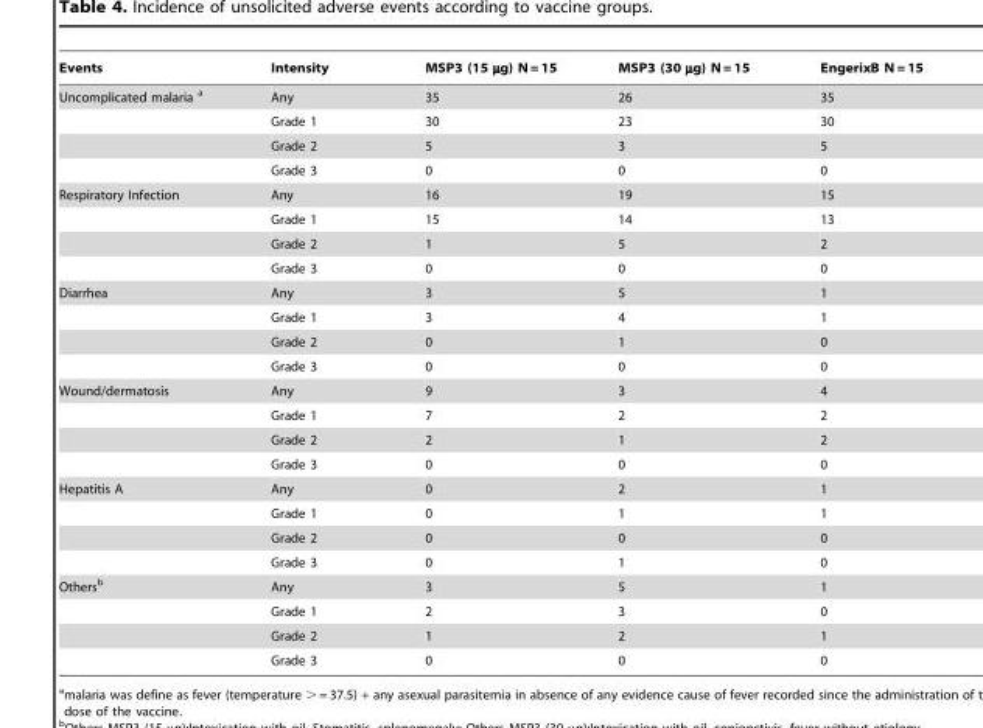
<table><thead><tr><td>Events</td><td>Intensity</td><td>MSP3 (15 µg) N = 15</td><td>MSP3 (30 µg) N = 15</td><td>EngerixB N = 15</td></tr></thead><tbody><tr><td rowspan="4">Uncomplicated malaria a</td><td>Any</td><td>35</td><td>26</td><td>35</td></tr><tr><td>Grade 1</td><td>30</td><td>23</td><td>30</td></tr><tr><td>Grade 2</td><td>5</td><td>3</td><td>5</td></tr><tr><td>Grade 3</td><td>0</td><td>0</td><td>0</td></tr><tr><td rowspan="4">Respiratory Infection</td><td>Any</td><td>16</td><td>19</td><td>15</td></tr><tr><td>Grade 1</td><td>15</td><td>14</td><td>13</td></tr><tr><td>Grade 2</td><td>1</td><td>5</td><td>2</td></tr><tr><td>Grade 3</td><td>0</td><td>0</td><td>0</td></tr><tr><td rowspan="4">Diarrhea</td><td>Any</td><td>3</td><td>5</td><td>1</td></tr><tr><td>Grade 1</td><td>3</td><td>4</td><td>1</td></tr><tr><td>Grade 2</td><td>0</td><td>1</td><td>0</td></tr><tr><td>Grade 3</td><td>0</td><td>0</td><td>0</td></tr><tr><td rowspan="4">Wound/dermatosis</td><td>Any</td><td>9</td><td>3</td><td>4</td></tr><tr><td>Grade 1</td><td>7</td><td>2</td><td>2</td></tr><tr><td>Grade 2</td><td>2</td><td>1</td><td>2</td></tr><tr><td>Grade 3</td><td>0</td><td>0</td><td>0</td></tr><tr><td rowspan="4">Hepatitis A</td><td>Any</td><td>0</td><td>2</td><td>1</td></tr><tr><td>Grade 1</td><td>0</td><td>1</td><td>1</td></tr><tr><td>Grade 2</td><td>0</td><td>0</td><td>0</td></tr><tr><td>Grade 3</td><td>0</td><td>1</td><td>0</td></tr><tr><td rowspan="4">Others<sup>b</sup></td><td>Any</td><td>3</td><td>5</td><td>1</td></tr><tr><td>Grade 1</td><td>2</td><td>3</td><td>0</td></tr><tr><td>Grade 2</td><td>1</td><td>2</td><td>1</td></tr><tr><td>Grade 3</td><td>0</td><td>0</td><td>0</td></tr></tbody></table>